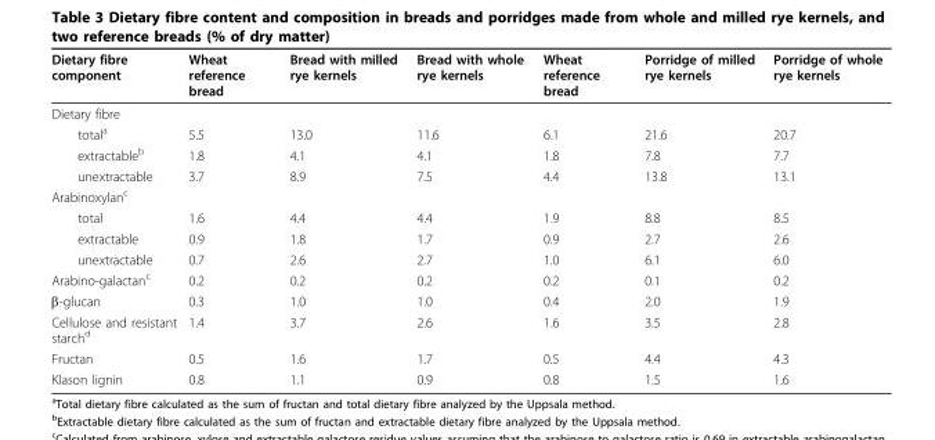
<table><tbody><tr><td>Dietary fibre component</td><td>Wheat reference bread</td><td>Bread with milled rye kernels</td><td>Bread with whole rye kernels</td><td>Wheat reference bread</td><td>Porridge of milled rye kernels</td><td>Porridge of whole rye kernels</td></tr><tr><td colspan="7">Dietary fibre</td></tr><tr><td>total<sup>a</sup></td><td>5.5</td><td>13.0</td><td>11.6</td><td>6.1</td><td>21.6</td><td>20.7</td></tr><tr><td>extractable<sup>b</sup></td><td>1.8</td><td>4.1</td><td>4.1</td><td>1.8</td><td>7.8</td><td>7.7</td></tr><tr><td>unextractable</td><td>3.7</td><td>8.9</td><td>7.5</td><td>4.4</td><td>13.8</td><td>13.1</td></tr><tr><td colspan="7">Arabinoxylan<sup>c</sup></td></tr><tr><td>total</td><td>1.6</td><td>4.4</td><td>4.4</td><td>1.9</td><td>8.8</td><td>8.5</td></tr><tr><td>extractable</td><td>0.9</td><td>1.8</td><td>1.7</td><td>0.9</td><td>2.7</td><td>2.6</td></tr><tr><td>unextractable</td><td>0.7</td><td>2.6</td><td>2.7</td><td>1.0</td><td>6.1</td><td>6.0</td></tr><tr><td>Arabino-galactan<sup>c</sup></td><td>0.2</td><td>0.2</td><td>0.2</td><td>0.2</td><td>0.1</td><td>0.2</td></tr><tr><td>β-glucan</td><td>0.3</td><td>1.0</td><td>1.0</td><td>0.4</td><td>2.0</td><td>1.9</td></tr><tr><td>Cellulose and resistant starch<sup>d</sup></td><td>1.4</td><td>3.7</td><td>2.6</td><td>1.6</td><td>3.5</td><td>2.8</td></tr><tr><td>Fructan</td><td>0.5</td><td>1.6</td><td>1.7</td><td>0.5</td><td>4.4</td><td>4.3</td></tr><tr><td>Klason lignin</td><td>0.8</td><td>1.1</td><td>0.9</td><td>0.8</td><td>1.5</td><td>1.6</td></tr></tbody></table>